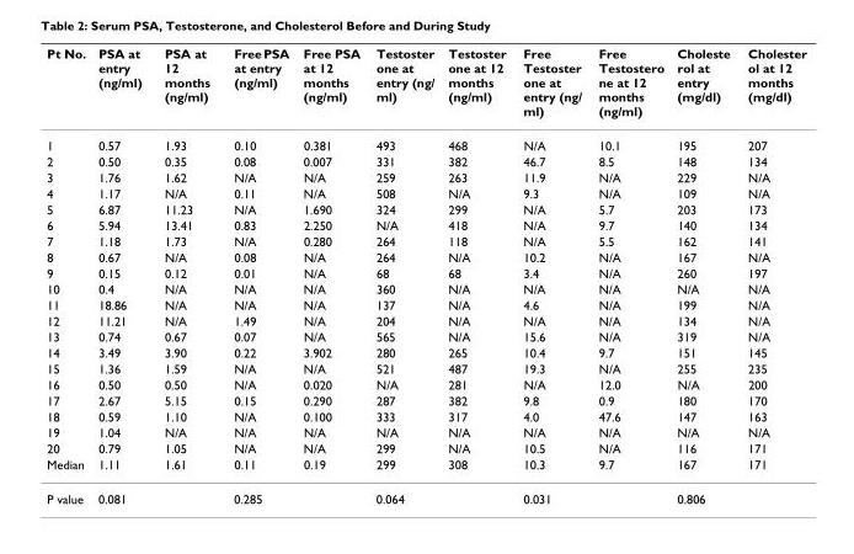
<table><thead><tr><td>Pt No.</td><td>PSA at entry (ng/ml)</td><td>PSA at 12 months (ng/ml)</td><td>Free PSA at entry (ng/ml)</td><td>Free PSA at 12 months (ng/ml)</td><td>Testoster one at entry (ng/ ml)</td><td>Testoster one at 12 months (ng/ml)</td><td>Free Testoster one at entry (ng/ ml)</td><td>Free Testostero ne at 12 months (ng/ml)</td><td>Choleste rol at entry (mg/dl)</td><td>Cholester ol at 12 months (mg/dl)</td></tr></thead><tbody><tr><td>1</td><td>0.57</td><td>1.93</td><td>0.10</td><td>0.381</td><td>493</td><td>468</td><td>N/A</td><td>10.1</td><td>195</td><td>207</td></tr><tr><td>2</td><td>0.50</td><td>0.35</td><td>0.08</td><td>0.007</td><td>331</td><td>382</td><td>46.7</td><td>8.5</td><td>148</td><td>134</td></tr><tr><td>3</td><td>1.76</td><td>1.62</td><td>N/A</td><td>N/A</td><td>259</td><td>263</td><td>11.9</td><td>N/A</td><td>229</td><td>N/A</td></tr><tr><td>4</td><td>1.17</td><td>N/A</td><td>0.11</td><td>N/A</td><td>508</td><td>N/A</td><td>9.3</td><td>N/A</td><td>109</td><td>N/A</td></tr><tr><td>5</td><td>6.87</td><td>11.23</td><td>N/A</td><td>1.690</td><td>324</td><td>299</td><td>N/A</td><td>5.7</td><td>203</td><td>173</td></tr><tr><td>6</td><td>5.94</td><td>13.41</td><td>0.83</td><td>2.250</td><td>N/A</td><td>418</td><td>N/A</td><td>9.7</td><td>140</td><td>134</td></tr><tr><td>7</td><td>1.18</td><td>1.73</td><td>N/A</td><td>0.280</td><td>264</td><td>118</td><td>N/A</td><td>5.5</td><td>162</td><td>141</td></tr><tr><td>8</td><td>0.67</td><td>N/A</td><td>0.08</td><td>N/A</td><td>264</td><td>N/A</td><td>10.2</td><td>N/A</td><td>167</td><td>N/A</td></tr><tr><td>9</td><td>0.15</td><td>0.12</td><td>0.01</td><td>N/A</td><td>68</td><td>68</td><td>3.4</td><td>N/A</td><td>260</td><td>197</td></tr><tr><td>10</td><td>0.4</td><td>N/A</td><td>N/A</td><td>N/A</td><td>360</td><td>N/A</td><td>N/A</td><td>N/A</td><td>N/A</td><td>N/A</td></tr><tr><td>11</td><td>18.86</td><td>N/A</td><td>N/A</td><td>N/A</td><td>137</td><td>N/A</td><td>4.6</td><td>N/A</td><td>199</td><td>N/A</td></tr><tr><td>12</td><td>11.21</td><td>N/A</td><td>1.49</td><td>N/A</td><td>204</td><td>N/A</td><td>N/A</td><td>N/A</td><td>134</td><td>N/A</td></tr><tr><td>13</td><td>0.74</td><td>0.67</td><td>0.07</td><td>N/A</td><td>565</td><td>N/A</td><td>15.6</td><td>N/A</td><td>319</td><td>N/A</td></tr><tr><td>14</td><td>3.49</td><td>3.90</td><td>0.22</td><td>3.902</td><td>280</td><td>265</td><td>10.4</td><td>9.7</td><td>151</td><td>145</td></tr><tr><td>15</td><td>1.36</td><td>1.59</td><td>N/A</td><td>N/A</td><td>521</td><td>487</td><td>19.3</td><td>N/A</td><td>255</td><td>235</td></tr><tr><td>16</td><td>0.50</td><td>0.50</td><td>N/A</td><td>0.020</td><td>N/A</td><td>281</td><td>N/A</td><td>12.0</td><td>N/A</td><td>200</td></tr><tr><td>17</td><td>2.67</td><td>5.15</td><td>0.15</td><td>0.290</td><td>287</td><td>382</td><td>9.8</td><td>0.9</td><td>180</td><td>170</td></tr><tr><td>18</td><td>0.59</td><td>1.10</td><td>N/A</td><td>0.100</td><td>333</td><td>317</td><td>4.0</td><td>47.6</td><td>147</td><td>163</td></tr><tr><td>19</td><td>1.04</td><td>N/A</td><td>N/A</td><td>N/A</td><td>N/A</td><td>N/A</td><td>N/A</td><td>N/A</td><td>N/A</td><td>N/A</td></tr><tr><td>20</td><td>0.79</td><td>1.05</td><td>N/A</td><td>N/A</td><td>299</td><td>N/A</td><td>10.5</td><td>N/A</td><td>116</td><td>171</td></tr><tr><td>Median</td><td>1.11</td><td>1.61</td><td>0.11</td><td>0.19</td><td>299</td><td>308</td><td>10.3</td><td>9.7</td><td>167</td><td>171</td></tr><tr><td>P value</td><td colspan="2">0.081</td><td colspan="2">0.285</td><td colspan="2">0.064</td><td colspan="2">0.031</td><td colspan="2">0.806</td></tr></tbody></table>